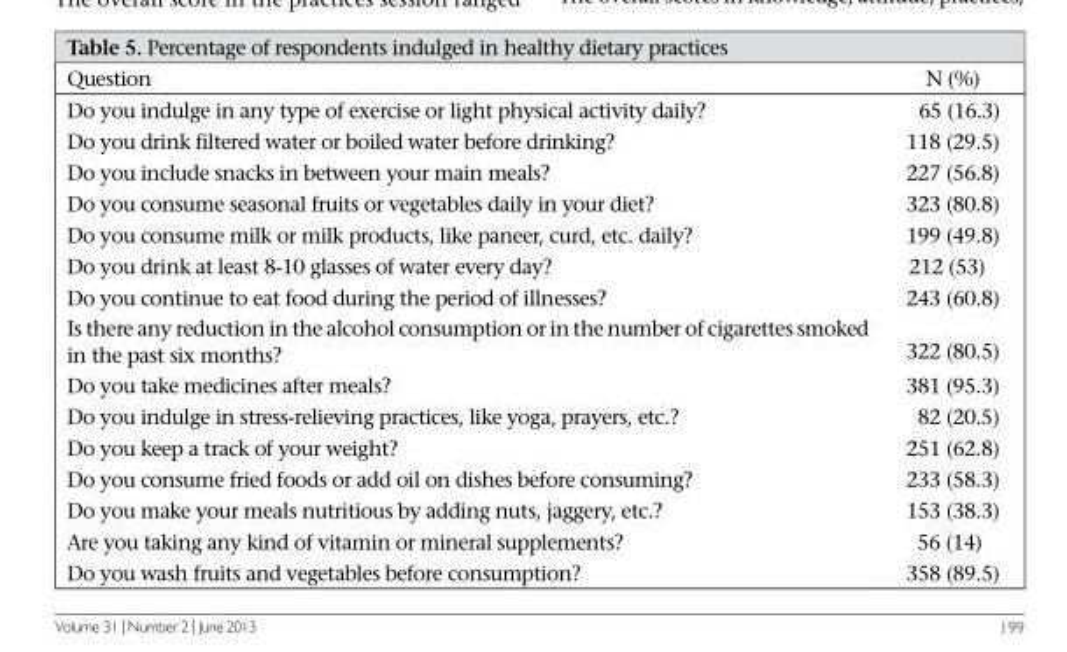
<table><thead><tr><td>Question</td><td>N (%)</td></tr></thead><tbody><tr><td>Do you indulge in any type of exercise or light physical activity daily?</td><td>65 (16.3)</td></tr><tr><td>Do you drink filtered water or boiled water before drinking?</td><td>118 (29.5)</td></tr><tr><td>Do you include snacks in between your main meals?</td><td>227 (56.8)</td></tr><tr><td>Do you consume seasonal fruits or vegetables daily in your diet?</td><td>323 (80.8)</td></tr><tr><td>Do you consume milk or milk products, like paneer, curd, etc. daily?</td><td>199 (49.8)</td></tr><tr><td>Do you drink at least 8-10 glasses of water every day?</td><td>212 (53)</td></tr><tr><td>Do you continue to eat food during the period of illnesses?</td><td>243 (60.8)</td></tr><tr><td>Is there any reduction in the alcohol consumption or in the number of cigarettes smoked in the past six months?</td><td>322 (80.5)</td></tr><tr><td>Do you take medicines after meals?</td><td>381 (95.3)</td></tr><tr><td>Do you indulge in stress-relieving practices, like yoga, prayers, etc.?</td><td>82 (20.5)</td></tr><tr><td>Do you keep a track of your weight?</td><td>251 (62.8)</td></tr><tr><td>Do you consume fried foods or add oil on dishes before consuming?</td><td>233 (58.3)</td></tr><tr><td>Do you make your meals nutritious by adding nuts, jaggery, etc.?</td><td>153 (38.3)</td></tr><tr><td>Are you taking any kind of vitamin or mineral supplements?</td><td>56 (14)</td></tr><tr><td>Do you wash fruits and vegetables before consumption?</td><td>358 (89.5)</td></tr></tbody></table>